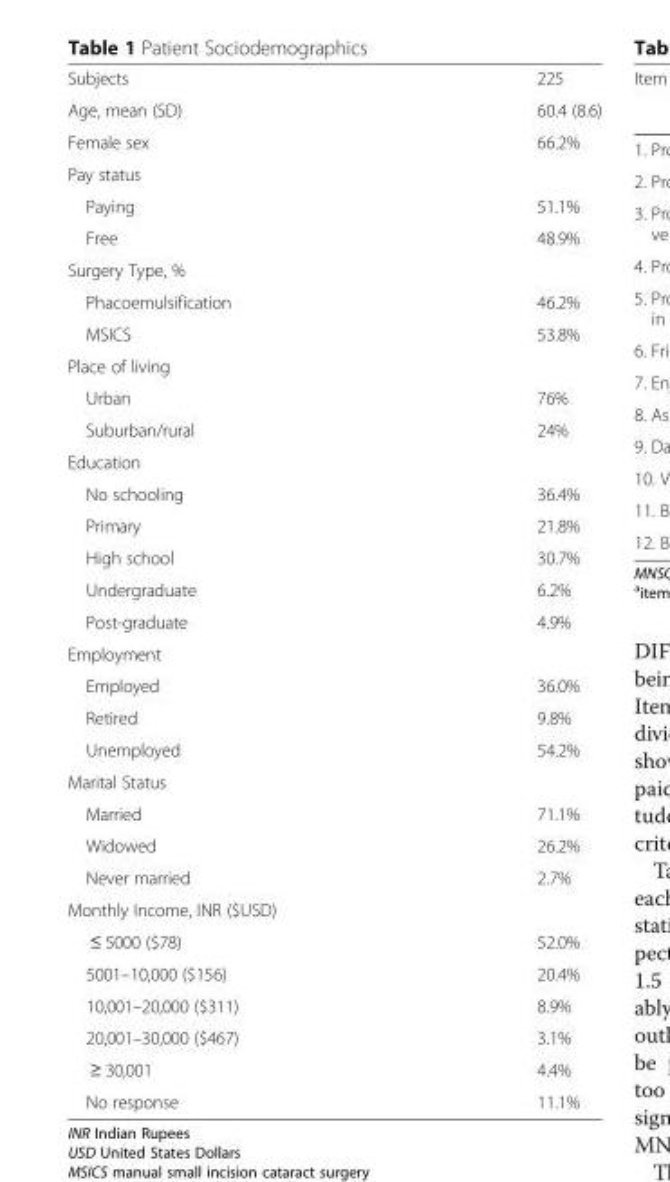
<table><tbody><tr><td>Subjects</td><td>225</td></tr><tr><td>Age, mean (SD)</td><td>60.4 (8.6)</td></tr><tr><td>Female sex</td><td>66.2%</td></tr><tr><td colspan="2">Pay status</td></tr><tr><td>Paying</td><td>51.1%</td></tr><tr><td>Free</td><td>48.9%</td></tr><tr><td colspan="2">Surgery Type, %</td></tr><tr><td>Phacoemulsification</td><td>46.2%</td></tr><tr><td>MSICS</td><td>53.8%</td></tr><tr><td colspan="2">Place of living</td></tr><tr><td>Urban</td><td>76%</td></tr><tr><td>Suburban/rural</td><td>24%</td></tr><tr><td colspan="2">Education</td></tr><tr><td>No schooling</td><td>36.4%</td></tr><tr><td>Primary</td><td>21.8%</td></tr><tr><td>High school</td><td>30.7%</td></tr><tr><td>Undergraduate</td><td>6.2%</td></tr><tr><td>Post-graduate</td><td>4.9%</td></tr><tr><td colspan="2">Employment</td></tr><tr><td>Employed</td><td>36.0%</td></tr><tr><td>Retired</td><td>9.8%</td></tr><tr><td>Unemployed</td><td>54.2%</td></tr><tr><td colspan="2">Marital Status</td></tr><tr><td>Married</td><td>71.1%</td></tr><tr><td>Widowed</td><td>26.2%</td></tr><tr><td>Never married</td><td>2.7%</td></tr><tr><td colspan="2">Monthly Income, INR ($USD)</td></tr><tr><td>≤ 5000 ($78)</td><td>52.0%</td></tr><tr><td>5001–10,000 ($156)</td><td>20.4%</td></tr><tr><td>10,001–20,000 ($311)</td><td>8.9%</td></tr><tr><td>20,001–30,000 ($467)</td><td>3.1%</td></tr><tr><td>≥ 30,001</td><td>4.4%</td></tr><tr><td>No response</td><td>11.1%</td></tr></tbody></table>